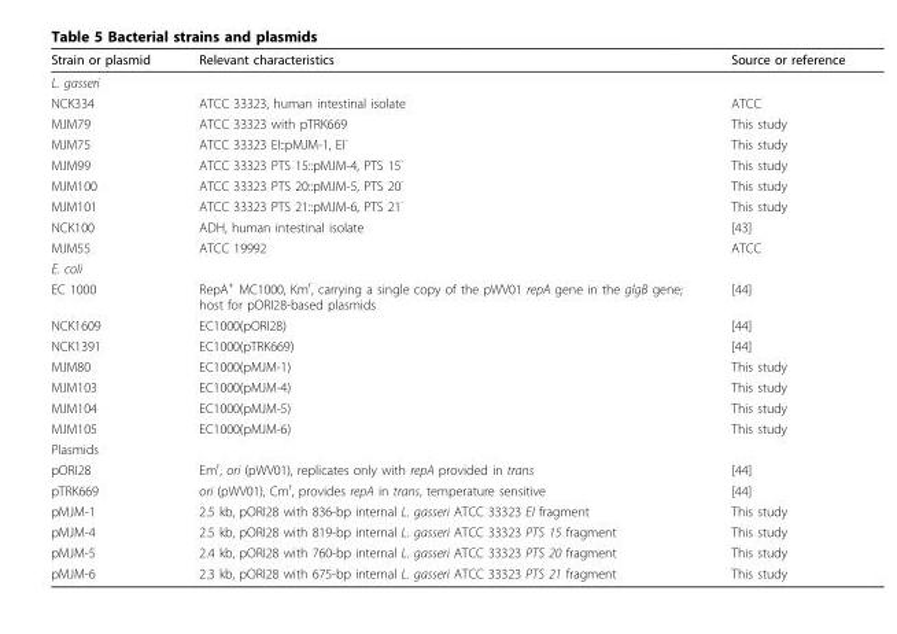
<table><thead><tr><td>Strain or plasmid</td><td>Relevant characteristics</td><td>Source or reference</td></tr></thead><tbody><tr><td colspan="3">L. gasseri</td></tr><tr><td>NCK334</td><td>ATCC 33323, human intestinal isolate</td><td>ATCC</td></tr><tr><td>MJM79</td><td>ATCC 33323 with pTRK669</td><td>This study</td></tr><tr><td>MJM75</td><td>ATCC 33323 EI::pMJM-1, EI<sup>-</sup></td><td>This study</td></tr><tr><td>MJM99</td><td>ATCC 33323 PTS 15::pMJM-4, PTS 15<sup>-</sup></td><td>This study</td></tr><tr><td>MJM100</td><td>ATCC 33323 PTS 20::pMJM-5, PTS 20<sup>-</sup></td><td>This study</td></tr><tr><td>MJM101</td><td>ATCC 33323 PTS 21::pMJM-6, PTS 21<sup>-</sup></td><td>This study</td></tr><tr><td>NCK100</td><td>ADH, human intestinal isolate</td><td>[43]</td></tr><tr><td>MJM55</td><td>ATCC 19992</td><td>ATCC</td></tr><tr><td colspan="3">E. coli</td></tr><tr><td>EC 1000</td><td>RepA<sup>+</sup> MC1000, Km<sup>r</sup>, carrying a single copy of the pWV01 repA gene in the glgB gene; host for pORI28-based plasmids</td><td>[44]</td></tr><tr><td>NCK1609</td><td>EC1000(pORI28)</td><td>[44]</td></tr><tr><td>NCK1391</td><td>EC1000(pTRK669)</td><td>[44]</td></tr><tr><td>MJM80</td><td>EC1000(pMJM-1)</td><td>This study</td></tr><tr><td>MJM103</td><td>EC1000(pMJM-4)</td><td>This study</td></tr><tr><td>MJM104</td><td>EC1000(pMJM-5)</td><td>This study</td></tr><tr><td>MJM105</td><td>EC1000(pMJM-6)</td><td>This study</td></tr><tr><td colspan="3">Plasmids</td></tr><tr><td>pORI28</td><td>Em<sup>r</sup>, ori (pWV01), replicates only with repA provided in trans</td><td>[44]</td></tr><tr><td>pTRK669</td><td>ori (pWV01), Cm<sup>r</sup>, provides repA in trans, temperature sensitive</td><td>[44]</td></tr><tr><td>pMJM-1</td><td>2.5 kb, pORI28 with 836-bp internal L. gasseri ATCC 33323 EI fragment</td><td>This study</td></tr><tr><td>pMJM-4</td><td>2.5 kb, pORI28 with 819-bp internal L. gasseri ATCC 33323 PTS 15 fragment</td><td>This study</td></tr><tr><td>pMJM-5</td><td>2.4 kb, pORI28 with 760-bp internal L. gasseri ATCC 33323 PTS 20 fragment</td><td>This study</td></tr><tr><td>pMJM-6</td><td>2.3 kb, pORI28 with 675-bp internal L. gasseri ATCC 33323 PTS 21 fragment</td><td>This study</td></tr></tbody></table>